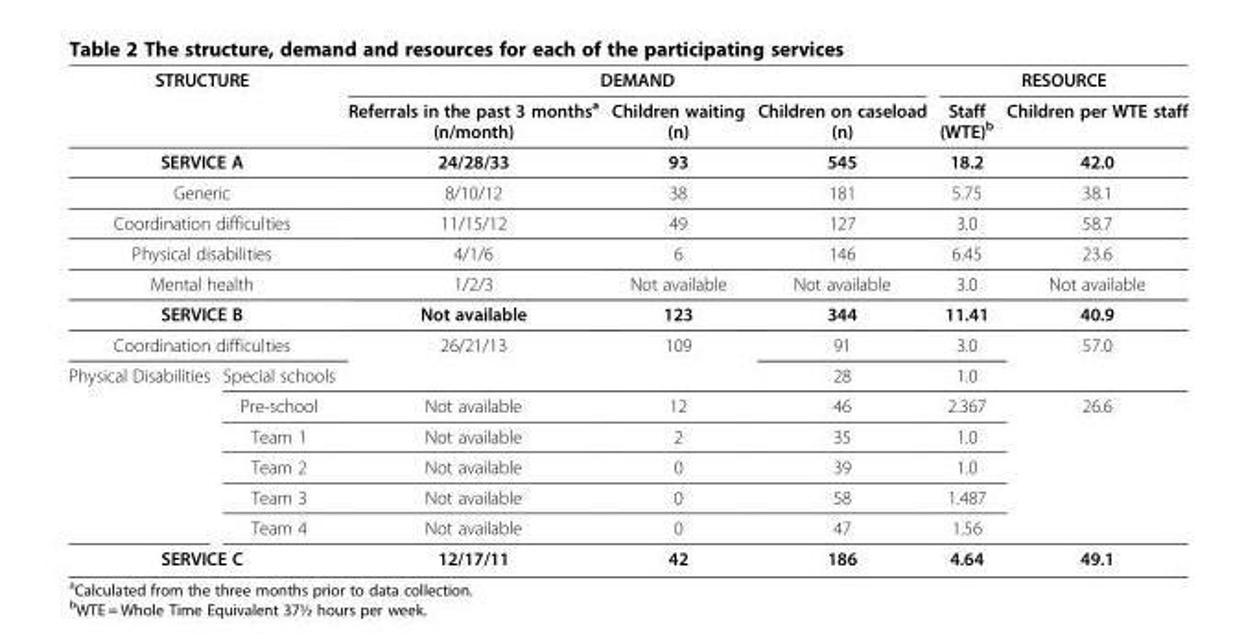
<table><thead><tr><td colspan="2">STRUCTURE</td><td colspan="3">DEMAND</td><td colspan="2">RESOURCE</td></tr><tr><td></td><td></td><td>Referrals in the past 3 months<sup>a</sup> (n/month)</td><td>Children waiting (n)</td><td>Children on caseload (n)</td><td>Staff (WTE)<sup>b</sup></td><td>Children per WTE staff</td></tr></thead><tbody><tr><td colspan="2">SERVICE A</td><td>24/28/33</td><td>93</td><td>545</td><td>18.2</td><td>42.0</td></tr><tr><td colspan="2">Generic</td><td>8/10/12</td><td>38</td><td>181</td><td>5.75</td><td>38.1</td></tr><tr><td colspan="2">Coordination difficulties</td><td>11/15/12</td><td>49</td><td>127</td><td>3.0</td><td>58.7</td></tr><tr><td colspan="2">Physical disabilities</td><td>4/1/6</td><td>6</td><td>146</td><td>6.45</td><td>23.6</td></tr><tr><td colspan="2">Mental health</td><td>1/2/3</td><td>Not available</td><td>Not available</td><td>3.0</td><td>Not available</td></tr><tr><td colspan="2">SERVICE B</td><td>Not available</td><td>123</td><td>344</td><td>11.41</td><td>40.9</td></tr><tr><td colspan="2">Coordination difficulties</td><td>26/21/13</td><td>109</td><td>91</td><td>3.0</td><td>57.0</td></tr><tr><td rowspan="6">Physical Disabilities</td><td>Special schools</td><td></td><td></td><td>28</td><td>1.0</td><td></td></tr><tr><td>Pre-school</td><td>Not available</td><td>12</td><td>46</td><td>2.367</td><td>26.6</td></tr><tr><td>Team 1</td><td>Not available</td><td>2</td><td>35</td><td>1.0</td><td></td></tr><tr><td>Team 2</td><td>Not available</td><td>0</td><td>39</td><td>1.0</td><td></td></tr><tr><td>Team 3</td><td>Not available</td><td>0</td><td>58</td><td>1.487</td><td></td></tr><tr><td>Team 4</td><td>Not available</td><td>0</td><td>47</td><td>1.56</td><td></td></tr><tr><td colspan="2">SERVICE C</td><td>12/17/11</td><td>42</td><td>186</td><td>4.64</td><td>49.1</td></tr></tbody></table>